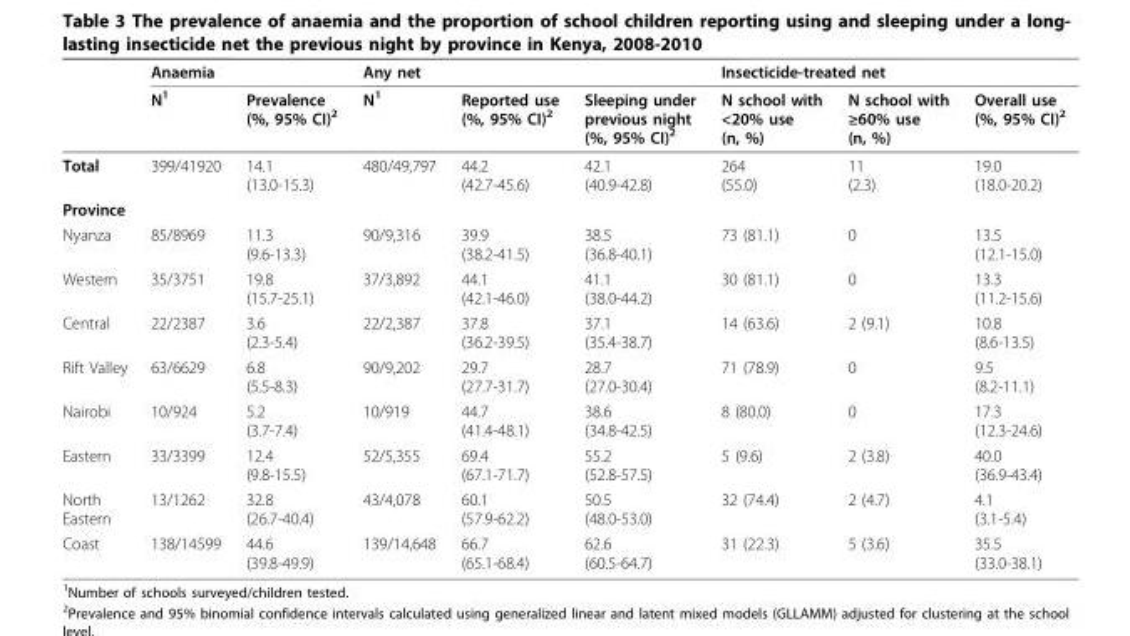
<table><thead><tr><td rowspan="2"></td><td colspan="2">Anaemia</td><td colspan="3">Any net</td><td colspan="3">Insecticide-treated net</td></tr><tr><td>N<sup>1</sup></td><td>Prevalence (%, 95% CI)<sup>2</sup></td><td>N<sup>1</sup></td><td>Reported use (%, 95% CI)<sup>2</sup></td><td>Sleeping under previous night (%, 95% CI)<sup>2</sup></td><td>N school with &lt;20% use (n, %)</td><td>N school with ≥60% use (n, %)</td><td>Overall use (%, 95% CI)<sup>2</sup></td></tr></thead><tbody><tr><td>Total</td><td>399/41920</td><td>14.1 (13.0-15.3)</td><td>480/49,797</td><td>44.2 (42.7-45.6)</td><td>42.1 (40.9-42.8)</td><td>264 (55.0)</td><td>11 (2.3)</td><td>19.0 (18.0-20.2)</td></tr><tr><td colspan="9">Province</td></tr><tr><td>Nyanza</td><td>85/8969</td><td>11.3 (9.6-13.3)</td><td>90/9,316</td><td>39.9 (38.2-41.5)</td><td>38.5 (36.8-40.1)</td><td>73 (81.1)</td><td>0</td><td>13.5 (12.1-15.0)</td></tr><tr><td>Western</td><td>35/3751</td><td>19.8 (15.7-25.1)</td><td>37/3,892</td><td>44.1 (42.1-46.0)</td><td>41.1 (38.0-44.2)</td><td>30 (81.1)</td><td>0</td><td>13.3 (11.2-15.6)</td></tr><tr><td>Central</td><td>22/2387</td><td>3.6 (2.3-5.4)</td><td>22/2,387</td><td>37.8 (36.2-39.5)</td><td>37.1 (35.4-38.7)</td><td>14 (63.6)</td><td>2 (9.1)</td><td>10.8 (8.6-13.5)</td></tr><tr><td>Rift Valley</td><td>63/6629</td><td>6.8 (5.5-8.3)</td><td>90/9,202</td><td>29.7 (27.7-31.7)</td><td>28.7 (27.0-30.4)</td><td>71 (78.9)</td><td>0</td><td>9.5 (8.2-11.1)</td></tr><tr><td>Nairobi</td><td>10/924</td><td>5.2 (3.7-7.4)</td><td>10/919</td><td>44.7 (41.4-48.1)</td><td>38.6 (34.8-42.5)</td><td>8 (80.0)</td><td>0</td><td>17.3 (12.3-24.6)</td></tr><tr><td>Eastern</td><td>33/3399</td><td>12.4 (9.8-15.5)</td><td>52/5,355</td><td>69.4 (67.1-71.7)</td><td>55.2 (52.8-57.5)</td><td>5 (9.6)</td><td>2 (3.8)</td><td>40.0 (36.9-43.4)</td></tr><tr><td>North Eastern</td><td>13/1262</td><td>32.8 (26.7-40.4)</td><td>43/4,078</td><td>60.1 (57.9-62.2)</td><td>50.5 (48.0-53.0)</td><td>32 (74.4)</td><td>2 (4.7)</td><td>4.1 (3.1-5.4)</td></tr><tr><td>Coast</td><td>138/14599</td><td>44.6 (39.8-49.9)</td><td>139/14,648</td><td>66.7 (65.1-68.4)</td><td>62.6 (60.5-64.7)</td><td>31 (22.3)</td><td>5 (3.6)</td><td>35.5 (33.0-38.1)</td></tr></tbody></table>